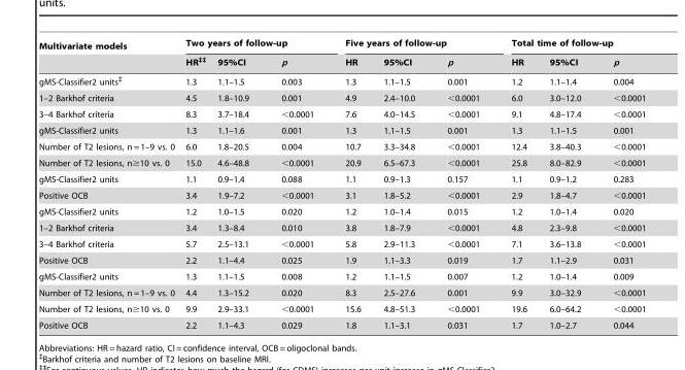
<table><thead><tr><td rowspan="2">Multivariate models</td><td colspan="3">Two years of follow-up</td><td colspan="3">Five years of follow-up</td><td colspan="3">Total time of follow-up</td></tr><tr><td>HR‡‡</td><td>95%CI</td><td>p</td><td>HR</td><td>95%CI</td><td>p</td><td>HR</td><td>95%CI</td><td>p</td></tr></thead><tbody><tr><td>gMS-Classifier2 units‡</td><td>1.3</td><td>1.1–1.5</td><td>0.003</td><td>1.3</td><td>1.1–1.5</td><td>0.001</td><td>1.2</td><td>1.1–1.4</td><td>0.004</td></tr><tr><td>1–2 Barkhof criteria</td><td>4.5</td><td>1.8–10.9</td><td>0.001</td><td>4.9</td><td>2.4–10.0</td><td>&lt;0.0001</td><td>6.0</td><td>3.0–12.0</td><td>&lt;0.0001</td></tr><tr><td>3–4 Barkhof criteria</td><td>8.3</td><td>3.7–18.4</td><td>&lt;0.0001</td><td>7.6</td><td>4.0–14.5</td><td>&lt;0.0001</td><td>9.1</td><td>4.8–17.4</td><td>&lt;0.0001</td></tr><tr><td>gMS-Classifier2 units</td><td>1.3</td><td>1.1–1.6</td><td>0.001</td><td>1.3</td><td>1.1–1.5</td><td>0.001</td><td>1.3</td><td>1.1–1.5</td><td>0.001</td></tr><tr><td>Number of T2 lesions, n = 1–9 vs. 0</td><td>6.0</td><td>1.8–20.5</td><td>0.004</td><td>10.7</td><td>3.3–34.8</td><td>&lt;0.0001</td><td>12.4</td><td>3.8–40.3</td><td>&lt;0.0001</td></tr><tr><td>Number of T2 lesions, n≥10 vs. 0</td><td>15.0</td><td>4.6–48.8</td><td>&lt;0.0001</td><td>20.9</td><td>6.5–67.3</td><td>&lt;0.0001</td><td>25.8</td><td>8.0–82.9</td><td>&lt;0.0001</td></tr><tr><td>gMS-Classifier2 units</td><td>1.1</td><td>0.9–1.4</td><td>0.088</td><td>1.1</td><td>0.9–1.3</td><td>0.157</td><td>1.1</td><td>0.9–1.2</td><td>0.283</td></tr><tr><td>Positive OCB</td><td>3.4</td><td>1.9–7.2</td><td>&lt;0.0001</td><td>3.1</td><td>1.8–5.2</td><td>&lt;0.0001</td><td>2.9</td><td>1.8–4.7</td><td>&lt;0.0001</td></tr><tr><td>gMS-Classifier2 units</td><td>1.2</td><td>1.0–1.5</td><td>0.020</td><td>1.2</td><td>1.0–1.4</td><td>0.015</td><td>1.2</td><td>1.0–1.4</td><td>0.020</td></tr><tr><td>1–2 Barkhof criteria</td><td>3.4</td><td>1.3–8.4</td><td>0.010</td><td>3.8</td><td>1.8–7.9</td><td>&lt;0.0001</td><td>4.8</td><td>2.3–9.8</td><td>&lt;0.0001</td></tr><tr><td>3–4 Barkhof criteria</td><td>5.7</td><td>2.5–13.1</td><td>&lt;0.0001</td><td>5.8</td><td>2.9–11.3</td><td>&lt;0.0001</td><td>7.1</td><td>3.6–13.8</td><td>&lt;0.0001</td></tr><tr><td>Positive OCB</td><td>2.2</td><td>1.1–4.4</td><td>0.025</td><td>1.9</td><td>1.1–3.3</td><td>0.019</td><td>1.7</td><td>1.1–2.9</td><td>0.031</td></tr><tr><td>gMS-Classifier2 units</td><td>1.3</td><td>1.1–1.5</td><td>0.008</td><td>1.2</td><td>1.1–1.5</td><td>0.007</td><td>1.2</td><td>1.0–1.4</td><td>0.009</td></tr><tr><td>Number of T2 lesions, n = 1–9 vs. 0</td><td>4.4</td><td>1.3–15.2</td><td>0.020</td><td>8.3</td><td>2.5–27.6</td><td>0.001</td><td>9.9</td><td>3.0–32.9</td><td>&lt;0.0001</td></tr><tr><td>Number of T2 lesions, n≥10 vs. 0</td><td>9.9</td><td>2.9–33.1</td><td>&lt;0.0001</td><td>15.6</td><td>4.8–51.3</td><td>&lt;0.0001</td><td>19.6</td><td>6.0–64.2</td><td>&lt;0.0001</td></tr><tr><td>Positive OCB</td><td>2.2</td><td>1.1–4.3</td><td>0.029</td><td>1.8</td><td>1.1–3.1</td><td>0.031</td><td>1.7</td><td>1.0–2.7</td><td>0.044</td></tr></tbody></table>